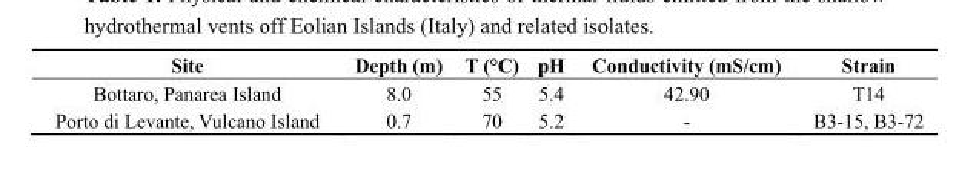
<table><thead><tr><td>Site</td><td>Depth (m)</td><td>T (°C)</td><td>pH</td><td>Conductivity (mS/cm)</td><td>Strain</td></tr></thead><tbody><tr><td>Bottaro, Panarea Island</td><td>8.0</td><td>55</td><td>5.4</td><td>42.90</td><td>T14</td></tr><tr><td>Porto di Levante, Vulcano Island</td><td>0.7</td><td>70</td><td>5.2</td><td>-</td><td>B3-15, B3-72</td></tr></tbody></table>